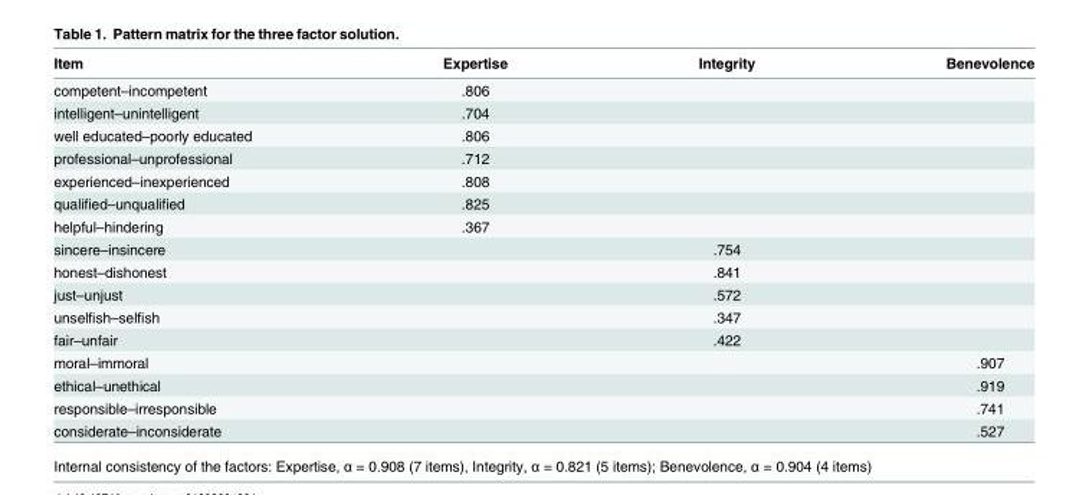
<table><thead><tr><td>Item</td><td>Expertise</td><td>Integrity</td><td>Benevolence</td></tr></thead><tbody><tr><td>competent–incompetent</td><td>.806</td><td></td><td></td></tr><tr><td>intelligent–unintelligent</td><td>.704</td><td></td><td></td></tr><tr><td>well educated–poorly educated</td><td>.806</td><td></td><td></td></tr><tr><td>professional–unprofessional</td><td>.712</td><td></td><td></td></tr><tr><td>experienced–inexperienced</td><td>.808</td><td></td><td></td></tr><tr><td>qualified–unqualified</td><td>.825</td><td></td><td></td></tr><tr><td>helpful–hindering</td><td>.367</td><td></td><td></td></tr><tr><td>sincere–insincere</td><td></td><td>.754</td><td></td></tr><tr><td>honest–dishonest</td><td></td><td>.841</td><td></td></tr><tr><td>just–unjust</td><td></td><td>.572</td><td></td></tr><tr><td>unselfish–selfish</td><td></td><td>.347</td><td></td></tr><tr><td>fair–unfair</td><td></td><td>.422</td><td></td></tr><tr><td>moral–immoral</td><td></td><td></td><td>.907</td></tr><tr><td>ethical–unethical</td><td></td><td></td><td>.919</td></tr><tr><td>responsible–irresponsible</td><td></td><td></td><td>.741</td></tr><tr><td>considerate–inconsiderate</td><td></td><td></td><td>.527</td></tr></tbody></table>